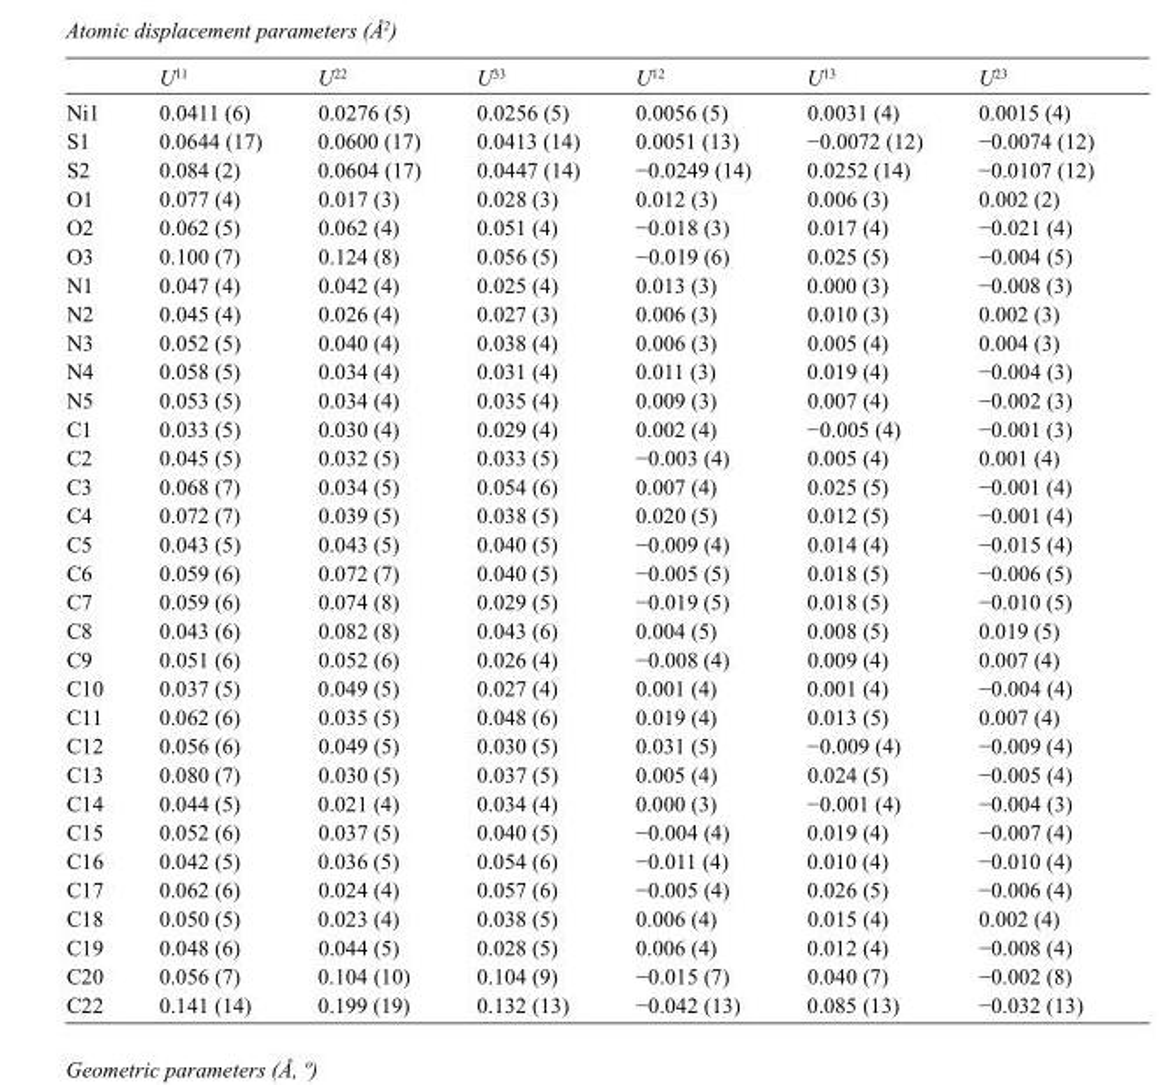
<table><thead><tr><td></td><td>U<sup>11</sup></td><td>U<sup>22</sup></td><td>U<sup>33</sup></td><td>U<sup>12</sup></td><td>U<sup>13</sup></td><td>U<sup>23</sup></td></tr></thead><tbody><tr><td>Ni1</td><td>0.0411 (6)</td><td>0.0276 (5)</td><td>0.0256 (5)</td><td>0.0056 (5)</td><td>0.0031 (4)</td><td>0.0015 (4)</td></tr><tr><td>S1</td><td>0.0644 (17)</td><td>0.0600 (17)</td><td>0.0413 (14)</td><td>0.0051 (13)</td><td>−0.0072 (12)</td><td>−0.0074 (12)</td></tr><tr><td>S2</td><td>0.084 (2)</td><td>0.0604 (17)</td><td>0.0447 (14)</td><td>−0.0249 (14)</td><td>0.0252 (14)</td><td>−0.0107 (12)</td></tr><tr><td>O1</td><td>0.077 (4)</td><td>0.017 (3)</td><td>0.028 (3)</td><td>0.012 (3)</td><td>0.006 (3)</td><td>0.002 (2)</td></tr><tr><td>O2</td><td>0.062 (5)</td><td>0.062 (4)</td><td>0.051 (4)</td><td>−0.018 (3)</td><td>0.017 (4)</td><td>−0.021 (4)</td></tr><tr><td>O3</td><td>0.100 (7)</td><td>0.124 (8)</td><td>0.056 (5)</td><td>−0.019 (6)</td><td>0.025 (5)</td><td>−0.004 (5)</td></tr><tr><td>N1</td><td>0.047 (4)</td><td>0.042 (4)</td><td>0.025 (4)</td><td>0.013 (3)</td><td>0.000 (3)</td><td>−0.008 (3)</td></tr><tr><td>N2</td><td>0.045 (4)</td><td>0.026 (4)</td><td>0.027 (3)</td><td>0.006 (3)</td><td>0.010 (3)</td><td>0.002 (3)</td></tr><tr><td>N3</td><td>0.052 (5)</td><td>0.040 (4)</td><td>0.038 (4)</td><td>0.006 (3)</td><td>0.005 (4)</td><td>0.004 (3)</td></tr><tr><td>N4</td><td>0.058 (5)</td><td>0.034 (4)</td><td>0.031 (4)</td><td>0.011 (3)</td><td>0.019 (4)</td><td>−0.004 (3)</td></tr><tr><td>N5</td><td>0.053 (5)</td><td>0.034 (4)</td><td>0.035 (4)</td><td>0.009 (3)</td><td>0.007 (4)</td><td>−0.002 (3)</td></tr><tr><td>C1</td><td>0.033 (5)</td><td>0.030 (4)</td><td>0.029 (4)</td><td>0.002 (4)</td><td>−0.005 (4)</td><td>−0.001 (3)</td></tr><tr><td>C2</td><td>0.045 (5)</td><td>0.032 (5)</td><td>0.033 (5)</td><td>−0.003 (4)</td><td>0.005 (4)</td><td>0.001 (4)</td></tr><tr><td>C3</td><td>0.068 (7)</td><td>0.034 (5)</td><td>0.054 (6)</td><td>0.007 (4)</td><td>0.025 (5)</td><td>−0.001 (4)</td></tr><tr><td>C4</td><td>0.072 (7)</td><td>0.039 (5)</td><td>0.038 (5)</td><td>0.020 (5)</td><td>0.012 (5)</td><td>−0.001 (4)</td></tr><tr><td>C5</td><td>0.043 (5)</td><td>0.043 (5)</td><td>0.040 (5)</td><td>−0.009 (4)</td><td>0.014 (4)</td><td>−0.015 (4)</td></tr><tr><td>C6</td><td>0.059 (6)</td><td>0.072 (7)</td><td>0.040 (5)</td><td>−0.005 (5)</td><td>0.018 (5)</td><td>−0.006 (5)</td></tr><tr><td>C7</td><td>0.059 (6)</td><td>0.074 (8)</td><td>0.029 (5)</td><td>−0.019 (5)</td><td>0.018 (5)</td><td>−0.010 (5)</td></tr><tr><td>C8</td><td>0.043 (6)</td><td>0.082 (8)</td><td>0.043 (6)</td><td>0.004 (5)</td><td>0.008 (5)</td><td>0.019 (5)</td></tr><tr><td>C9</td><td>0.051 (6)</td><td>0.052 (6)</td><td>0.026 (4)</td><td>−0.008 (4)</td><td>0.009 (4)</td><td>0.007 (4)</td></tr><tr><td>C10</td><td>0.037 (5)</td><td>0.049 (5)</td><td>0.027 (4)</td><td>0.001 (4)</td><td>0.001 (4)</td><td>−0.004 (4)</td></tr><tr><td>C11</td><td>0.062 (6)</td><td>0.035 (5)</td><td>0.048 (6)</td><td>0.019 (4)</td><td>0.013 (5)</td><td>0.007 (4)</td></tr><tr><td>C12</td><td>0.056 (6)</td><td>0.049 (5)</td><td>0.030 (5)</td><td>0.031 (5)</td><td>−0.009 (4)</td><td>−0.009 (4)</td></tr><tr><td>C13</td><td>0.080 (7)</td><td>0.030 (5)</td><td>0.037 (5)</td><td>0.005 (4)</td><td>0.024 (5)</td><td>−0.005 (4)</td></tr><tr><td>C14</td><td>0.044 (5)</td><td>0.021 (4)</td><td>0.034 (4)</td><td>0.000 (3)</td><td>−0.001 (4)</td><td>−0.004 (3)</td></tr><tr><td>C15</td><td>0.052 (6)</td><td>0.037 (5)</td><td>0.040 (5)</td><td>−0.004 (4)</td><td>0.019 (4)</td><td>−0.007 (4)</td></tr><tr><td>C16</td><td>0.042 (5)</td><td>0.036 (5)</td><td>0.054 (6)</td><td>−0.011 (4)</td><td>0.010 (4)</td><td>−0.010 (4)</td></tr><tr><td>C17</td><td>0.062 (6)</td><td>0.024 (4)</td><td>0.057 (6)</td><td>−0.005 (4)</td><td>0.026 (5)</td><td>−0.006 (4)</td></tr><tr><td>C18</td><td>0.050 (5)</td><td>0.023 (4)</td><td>0.038 (5)</td><td>0.006 (4)</td><td>0.015 (4)</td><td>0.002 (4)</td></tr><tr><td>C19</td><td>0.048 (6)</td><td>0.044 (5)</td><td>0.028 (5)</td><td>0.006 (4)</td><td>0.012 (4)</td><td>−0.008 (4)</td></tr><tr><td>C20</td><td>0.056 (7)</td><td>0.104 (10)</td><td>0.104 (9)</td><td>−0.015 (7)</td><td>0.040 (7)</td><td>−0.002 (8)</td></tr><tr><td>C22</td><td>0.141 (14)</td><td>0.199 (19)</td><td>0.132 (13)</td><td>−0.042 (13)</td><td>0.085 (13)</td><td>−0.032 (13)</td></tr></tbody></table>